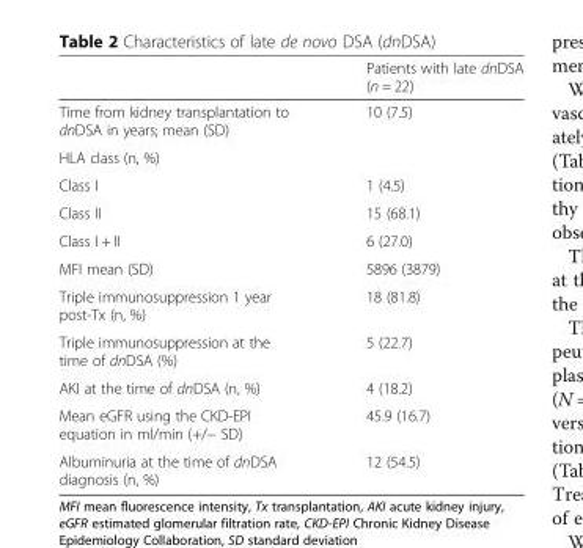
<table><thead><tr><td></td><td>Patients with late dnDSA (n = 22)</td></tr></thead><tbody><tr><td>Time from kidney transplantation to dnDSA in years; mean (SD)</td><td>10 (7.5)</td></tr><tr><td colspan="2">HLA class (n, %)</td></tr><tr><td>Class I</td><td>1 (4.5)</td></tr><tr><td>Class II</td><td>15 (68.1)</td></tr><tr><td>Class I + II</td><td>6 (27.0)</td></tr><tr><td>MFI mean (SD)</td><td>5896 (3879)</td></tr><tr><td>Triple immunosuppression 1 year post-Tx (n, %)</td><td>18 (81.8)</td></tr><tr><td>Triple immunosuppression at the time of dnDSA (%)</td><td>5 (22.7)</td></tr><tr><td>AKI at the time of dnDSA (n, %)</td><td>4 (18.2)</td></tr><tr><td>Mean eGFR using the CKD-EPI equation in ml/min (+/− SD)</td><td>45.9 (16.7)</td></tr><tr><td>Albuminuria at the time of dnDSA diagnosis (n, %)</td><td>12 (54.5)</td></tr></tbody></table>